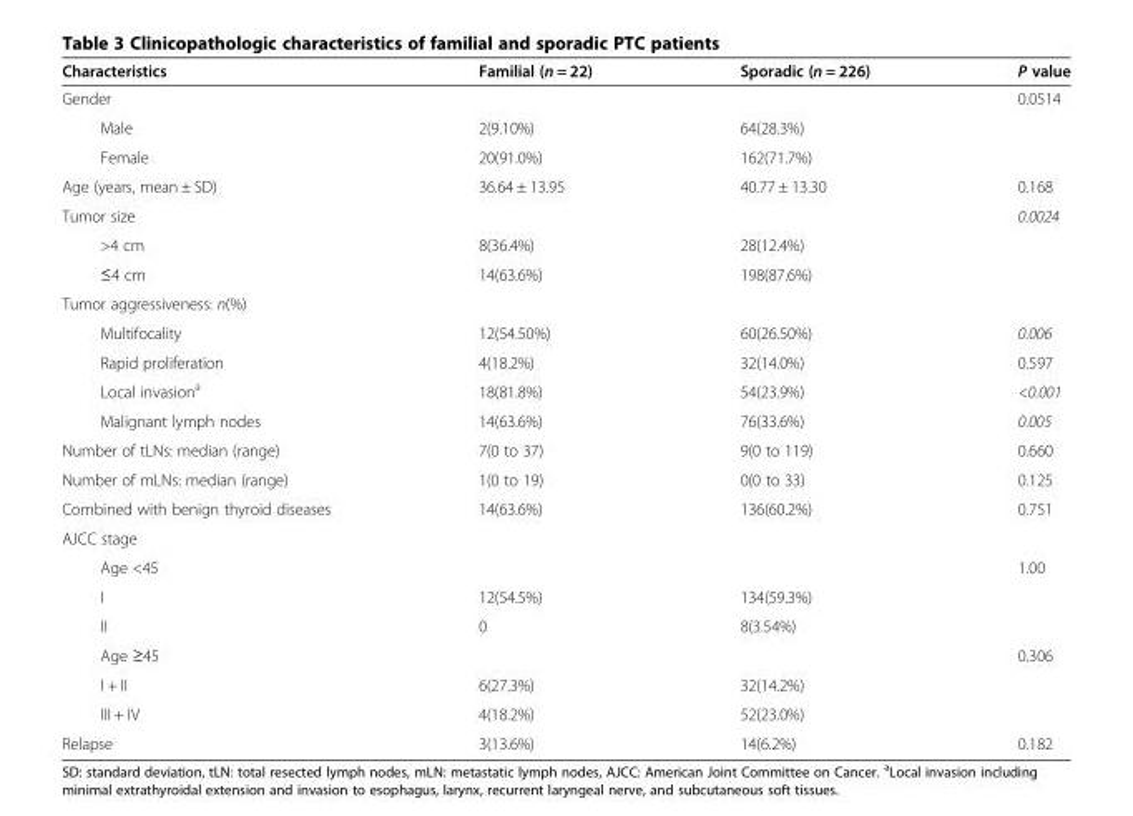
<table><thead><tr><td>Characteristics</td><td>Familial (n = 22)</td><td>Sporadic (n = 226)</td><td>P value</td></tr></thead><tbody><tr><td>Gender</td><td></td><td></td><td>0.0514</td></tr><tr><td>Male</td><td>2(9.10%)</td><td>64(28.3%)</td><td></td></tr><tr><td>Female</td><td>20(91.0%)</td><td>162(71.7%)</td><td></td></tr><tr><td>Age (years, mean ± SD)</td><td>36.64 ± 13.95</td><td>40.77 ± 13.30</td><td>0.168</td></tr><tr><td>Tumor size</td><td></td><td></td><td>0.0024</td></tr><tr><td>&gt;4 cm</td><td>8(36.4%)</td><td>28(12.4%)</td><td></td></tr><tr><td>≤4 cm</td><td>14(63.6%)</td><td>198(87.6%)</td><td></td></tr><tr><td colspan="4">Tumor aggressiveness: n(%)</td></tr><tr><td>Multifocality</td><td>12(54.50%)</td><td>60(26.50%)</td><td>0.006</td></tr><tr><td>Rapid proliferation</td><td>4(18.2%)</td><td>32(14.0%)</td><td>0.597</td></tr><tr><td>Local invasion<sup>a</sup></td><td>18(81.8%)</td><td>54(23.9%)</td><td>&lt;0.001</td></tr><tr><td>Malignant lymph nodes</td><td>14(63.6%)</td><td>76(33.6%)</td><td>0.005</td></tr><tr><td>Number of tLNs: median (range)</td><td>7(0 to 37)</td><td>9(0 to 119)</td><td>0.660</td></tr><tr><td>Number of mLNs: median (range)</td><td>1(0 to 19)</td><td>0(0 to 33)</td><td>0.125</td></tr><tr><td>Combined with benign thyroid diseases</td><td>14(63.6%)</td><td>136(60.2%)</td><td>0.751</td></tr><tr><td colspan="4">AJCC stage</td></tr><tr><td>Age &lt;45</td><td></td><td></td><td>1.00</td></tr><tr><td>I</td><td>12(54.5%)</td><td>134(59.3%)</td><td></td></tr><tr><td>II</td><td>0</td><td>8(3.54%)</td><td></td></tr><tr><td>Age ≥45</td><td></td><td></td><td>0.306</td></tr><tr><td>I + II</td><td>6(27.3%)</td><td>32(14.2%)</td><td></td></tr><tr><td>III + IV</td><td>4(18.2%)</td><td>52(23.0%)</td><td></td></tr><tr><td>Relapse</td><td>3(13.6%)</td><td>14(6.2%)</td><td>0.182</td></tr></tbody></table>